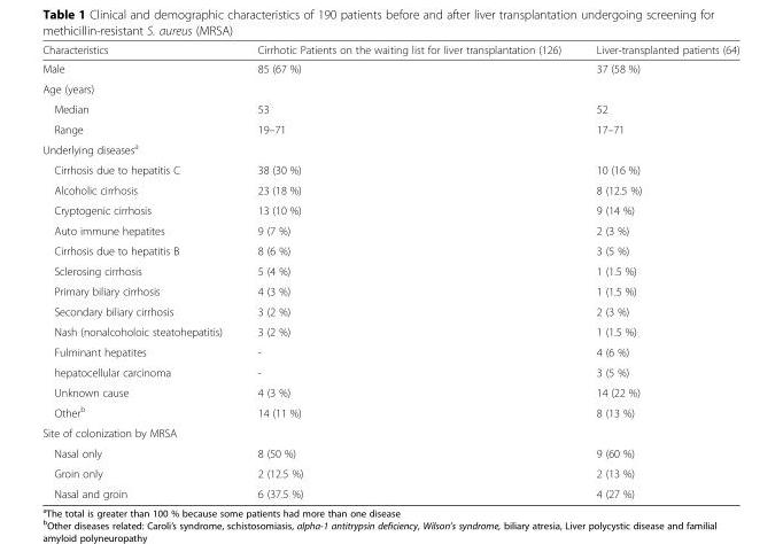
<table><thead><tr><td>Characteristics</td><td>Cirrhotic Patients on the waiting list for liver transplantation (126)</td><td>Liver-transplanted patients (64)</td></tr></thead><tbody><tr><td>Male</td><td>85 (67 %)</td><td>37 (58 %)</td></tr><tr><td colspan="3">Age (years)</td></tr><tr><td>Median</td><td>53</td><td>52</td></tr><tr><td>Range</td><td>19–71</td><td>17–71</td></tr><tr><td colspan="3">Underlying diseases<sup>a</sup></td></tr><tr><td>Cirrhosis due to hepatitis C</td><td>38 (30 %)</td><td>10 (16 %)</td></tr><tr><td>Alcoholic cirrhosis</td><td>23 (18 %)</td><td>8 (12.5 %)</td></tr><tr><td>Cryptogenic cirrhosis</td><td>13 (10 %)</td><td>9 (14 %)</td></tr><tr><td>Auto immune hepatites</td><td>9 (7 %)</td><td>2 (3 %)</td></tr><tr><td>Cirrhosis due to hepatitis B</td><td>8 (6 %)</td><td>3 (5 %)</td></tr><tr><td>Sclerosing cirrhosis</td><td>5 (4 %)</td><td>1 (1.5 %)</td></tr><tr><td>Primary biliary cirrhosis</td><td>4 (3 %)</td><td>1 (1.5 %)</td></tr><tr><td>Secondary biliary cirrhosis</td><td>3 (2 %)</td><td>2 (3 %)</td></tr><tr><td>Nash (nonalcoholoic steatohepatitis)</td><td>3 (2 %)</td><td>1 (1.5 %)</td></tr><tr><td>Fulminant hepatites</td><td>-</td><td>4 (6 %)</td></tr><tr><td>hepatocellular carcinoma</td><td>-</td><td>3 (5 %)</td></tr><tr><td>Unknown cause</td><td>4 (3 %)</td><td>14 (22 %)</td></tr><tr><td>Other<sup>b</sup></td><td>14 (11 %)</td><td>8 (13 %)</td></tr><tr><td colspan="3">Site of colonization by MRSA</td></tr><tr><td>Nasal only</td><td>8 (50 %)</td><td>9 (60 %)</td></tr><tr><td>Groin only</td><td>2 (12.5 %)</td><td>2 (13 %)</td></tr><tr><td>Nasal and groin</td><td>6 (37.5 %)</td><td>4 (27 %)</td></tr></tbody></table>